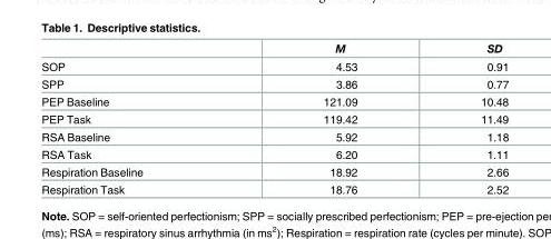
<table><thead><tr><td></td><td>M</td><td>SD</td></tr></thead><tbody><tr><td>SOP</td><td>4.53</td><td>0.91</td></tr><tr><td>SPP</td><td>3.86</td><td>0.77</td></tr><tr><td>PEP Baseline</td><td>121.09</td><td>10.48</td></tr><tr><td>PEP Task</td><td>119.42</td><td>11.49</td></tr><tr><td>RSA Baseline</td><td>5.92</td><td>1.18</td></tr><tr><td>RSA Task</td><td>6.20</td><td>1.11</td></tr><tr><td>Respiration Baseline</td><td>18.92</td><td>2.66</td></tr><tr><td>Respiration Task</td><td>18.76</td><td>2.52</td></tr></tbody></table>